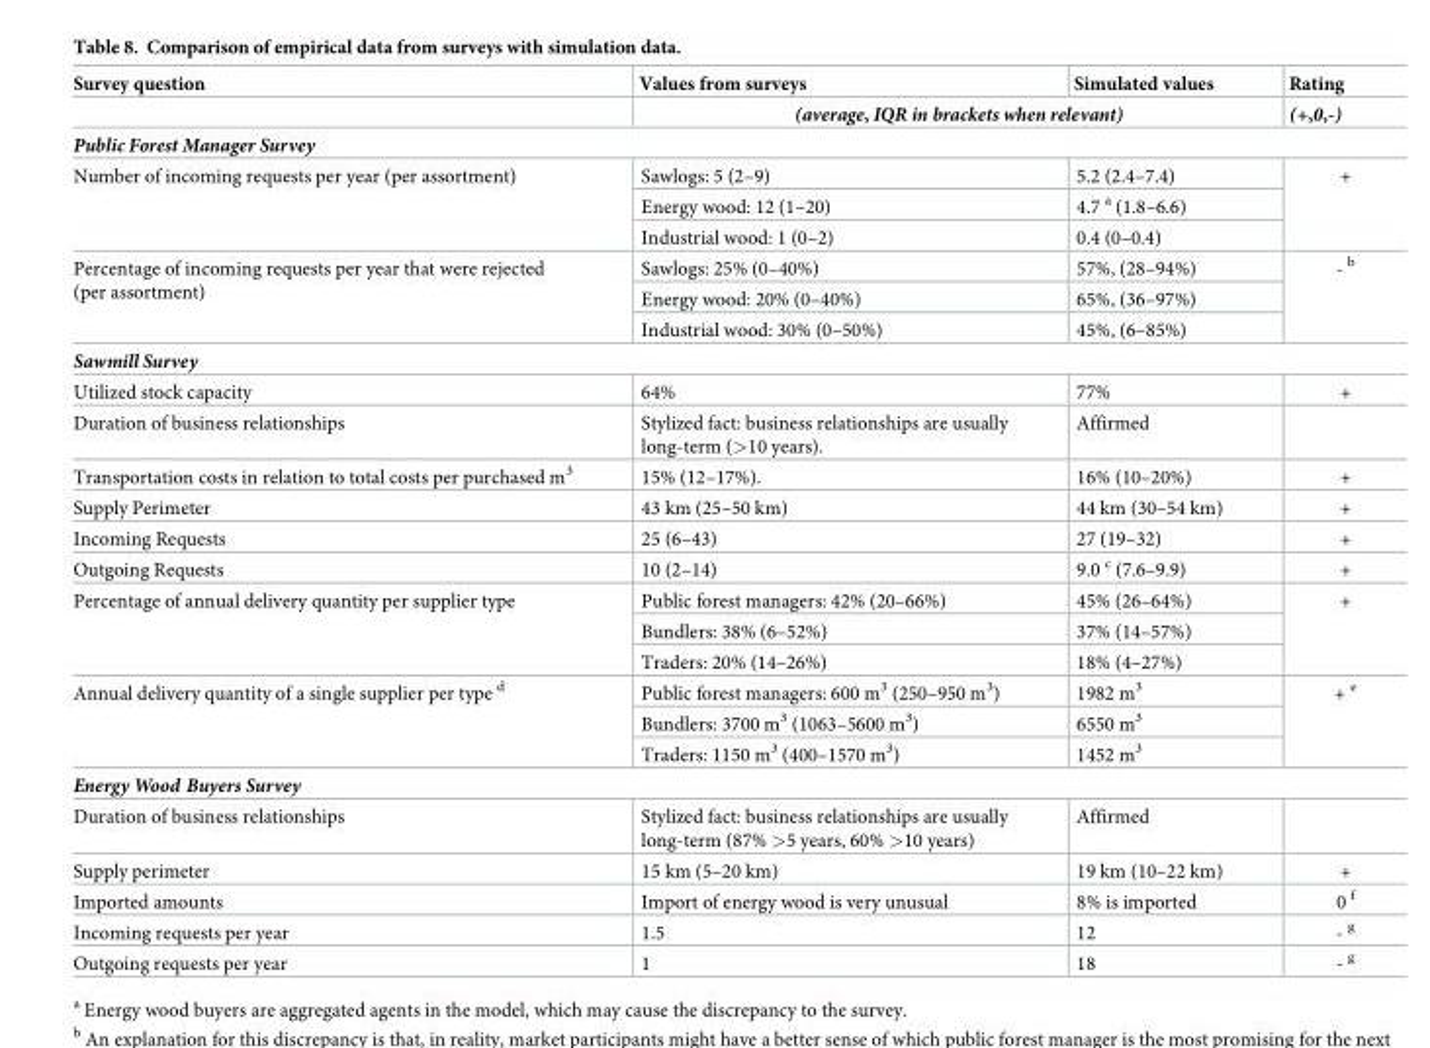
<table><thead><tr><td rowspan="2">Survey question</td><td>Values from surveys</td><td>Simulated values</td><td rowspan="2">Rating (+,0,-)</td></tr><tr><td colspan="2">(average, IQR in brackets when relevant)</td></tr></thead><tbody><tr><td colspan="4">Public Forest Manager Survey</td></tr><tr><td rowspan="3">Number of incoming requests per year (per assortment)</td><td>Sawlogs: 5 (2–9)</td><td>5.2 (2.4–7.4)</td><td rowspan="3">+</td></tr><tr><td>Energy wood: 12 (1–20)</td><td>4.7 <sup>a</sup> (1.8–6.6)</td></tr><tr><td>Industrial wood: 1 (0–2)</td><td>0.4 (0–0.4)</td></tr><tr><td rowspan="3">Percentage of incoming requests per year that were rejected (per assortment)</td><td>Sawlogs: 25% (0–40%)</td><td>57%, (28–94%)</td><td rowspan="3">- <sup>b</sup></td></tr><tr><td>Energy wood: 20% (0–40%)</td><td>65%, (36–97%)</td></tr><tr><td>Industrial wood: 30% (0–50%)</td><td>45%, (6–85%)</td></tr><tr><td colspan="4">Sawmill Survey</td></tr><tr><td>Utilized stock capacity</td><td>64%</td><td>77%</td><td>+</td></tr><tr><td>Duration of business relationships</td><td>Stylized fact: business relationships are usually long-term (&gt;10 years).</td><td>Affirmed</td><td></td></tr><tr><td>Transportation costs in relation to total costs per purchased m<sup>3</sup></td><td>15% (12–17%).</td><td>16% (10–20%)</td><td>+</td></tr><tr><td>Supply Perimeter</td><td>43 km (25–50 km)</td><td>44 km (30–54 km)</td><td>+</td></tr><tr><td>Incoming Requests</td><td>25 (6–43)</td><td>27 (19–32)</td><td>+</td></tr><tr><td>Outgoing Requests</td><td>10 (2–14)</td><td>9.0 <sup>c</sup> (7.6–9.9)</td><td>+</td></tr><tr><td rowspan="3">Percentage of annual delivery quantity per supplier type</td><td>Public forest managers: 42% (20–66%)</td><td>45% (26–64%)</td><td rowspan="3">+</td></tr><tr><td>Bundlers: 38% (6–52%)</td><td>37% (14–57%)</td></tr><tr><td>Traders: 20% (14–26%)</td><td>18% (4–27%)</td></tr><tr><td rowspan="3">Annual delivery quantity of a single supplier per type <sup>d</sup></td><td>Public forest managers: 600 m<sup>3</sup> (250–950 m<sup>3</sup>)</td><td>1982 m<sup>3</sup></td><td rowspan="3">+ <sup>e</sup></td></tr><tr><td>Bundlers: 3700 m<sup>3</sup> (1063–5600 m<sup>3</sup>)</td><td>6550 m<sup>3</sup></td></tr><tr><td>Traders: 1150 m<sup>3</sup> (400–1570 m<sup>3</sup>)</td><td>1452 m<sup>3</sup></td></tr><tr><td colspan="4">Energy Wood Buyers Survey</td></tr><tr><td>Duration of business relationships</td><td>Stylized fact: business relationships are usually long-term (87% &gt;5 years, 60% &gt;10 years)</td><td>Affirmed</td><td></td></tr><tr><td>Supply perimeter</td><td>15 km (5–20 km)</td><td>19 km (10–22 km)</td><td>+</td></tr><tr><td>Imported amounts</td><td>Import of energy wood is very unusual</td><td>8% is imported</td><td>0 <sup>f</sup></td></tr><tr><td>Incoming requests per year</td><td>1.5</td><td>12</td><td>- <sup>g</sup></td></tr><tr><td>Outgoing requests per year</td><td>1</td><td>18</td><td>- <sup>g</sup></td></tr></tbody></table>